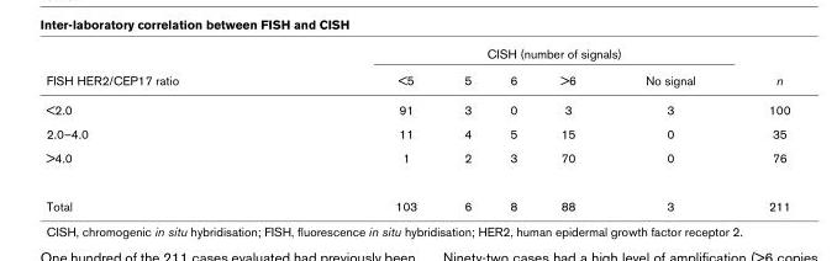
<table><thead><tr><td rowspan="2">FISH HER2/CEP17 ratio</td><td colspan="5">CISH (number of signals)</td><td rowspan="2">n</td></tr><tr><td>&lt;5</td><td>5</td><td>6</td><td>&gt;6</td><td>No signal</td></tr></thead><tbody><tr><td>&lt;2.0</td><td>91</td><td>3</td><td>0</td><td>3</td><td>3</td><td>100</td></tr><tr><td>2.0–4.0</td><td>11</td><td>4</td><td>5</td><td>15</td><td>0</td><td>35</td></tr><tr><td>&gt;4.0</td><td>1</td><td>2</td><td>3</td><td>70</td><td>0</td><td>76</td></tr><tr><td>Total</td><td>103</td><td>6</td><td>8</td><td>88</td><td>3</td><td>211</td></tr></tbody></table>